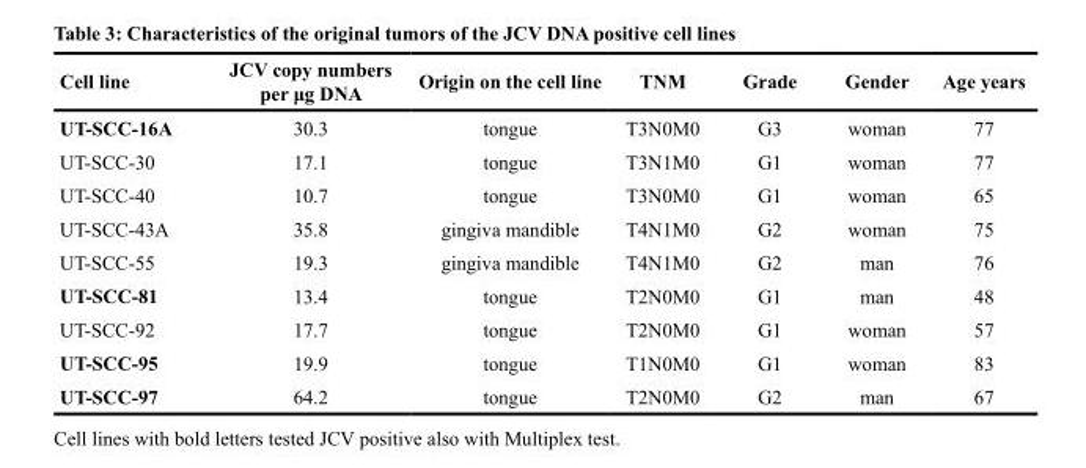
<table><thead><tr><td>Cell line</td><td>JCV copy numbers per μg DNA</td><td>Origin on the cell line</td><td>TNM</td><td>Grade</td><td>Gender</td><td>Age years</td></tr></thead><tbody><tr><td>UT-SCC-16A</td><td>30.3</td><td>tongue</td><td>T3N0M0</td><td>G3</td><td>woman</td><td>77</td></tr><tr><td>UT-SCC-30</td><td>17.1</td><td>tongue</td><td>T3N1M0</td><td>G1</td><td>woman</td><td>77</td></tr><tr><td>UT-SCC-40</td><td>10.7</td><td>tongue</td><td>T3N0M0</td><td>G1</td><td>woman</td><td>65</td></tr><tr><td>UT-SCC-43A</td><td>35.8</td><td>gingiva mandible</td><td>T4N1M0</td><td>G2</td><td>woman</td><td>75</td></tr><tr><td>UT-SCC-55</td><td>19.3</td><td>gingiva mandible</td><td>T4N1M0</td><td>G2</td><td>man</td><td>76</td></tr><tr><td>UT-SCC-81</td><td>13.4</td><td>tongue</td><td>T2N0M0</td><td>G1</td><td>man</td><td>48</td></tr><tr><td>UT-SCC-92</td><td>17.7</td><td>tongue</td><td>T2N0M0</td><td>G1</td><td>woman</td><td>57</td></tr><tr><td>UT-SCC-95</td><td>19.9</td><td>tongue</td><td>T1N0M0</td><td>G1</td><td>woman</td><td>83</td></tr><tr><td>UT-SCC-97</td><td>64.2</td><td>tongue</td><td>T2N0M0</td><td>G2</td><td>man</td><td>67</td></tr></tbody></table>